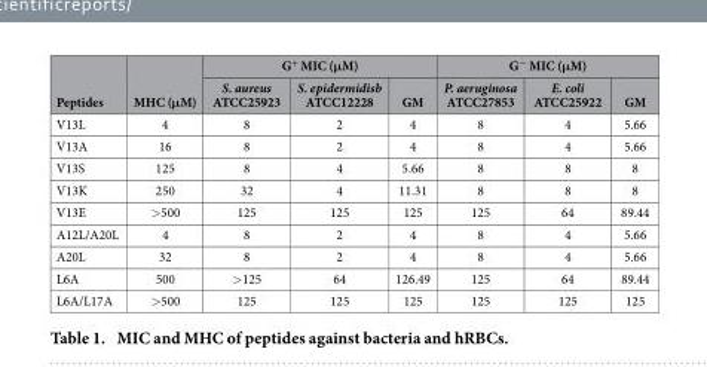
<table><thead><tr><td rowspan="2">Peptides</td><td rowspan="2">MHC (μM)</td><td colspan="3">G<sup>+</sup> MIC (μM)</td><td colspan="3">G<sup>−</sup> MIC (μM)</td></tr><tr><td>S. aureus ATCC25923</td><td>S. epidermidisb ATCC12228</td><td>GM</td><td>P. aeruginosa ATCC27853</td><td>E. coli ATCC25922</td><td>GM</td></tr></thead><tbody><tr><td>V13L</td><td>4</td><td>8</td><td>2</td><td>4</td><td>8</td><td>4</td><td>5.66</td></tr><tr><td>V13A</td><td>16</td><td>8</td><td>2</td><td>4</td><td>8</td><td>4</td><td>5.66</td></tr><tr><td>V13S</td><td>125</td><td>8</td><td>4</td><td>5.66</td><td>8</td><td>8</td><td>8</td></tr><tr><td>V13K</td><td>250</td><td>32</td><td>4</td><td>11.31</td><td>8</td><td>8</td><td>8</td></tr><tr><td>V13E</td><td>&gt; 500</td><td>125</td><td>125</td><td>125</td><td>125</td><td>64</td><td>89.44</td></tr><tr><td>A12L/A20L</td><td>4</td><td>8</td><td>2</td><td>4</td><td>8</td><td>4</td><td>5.66</td></tr><tr><td>A20L</td><td>32</td><td>8</td><td>2</td><td>4</td><td>8</td><td>4</td><td>5.66</td></tr><tr><td>L6A</td><td>500</td><td>&gt; 125</td><td>64</td><td>126.49</td><td>125</td><td>64</td><td>89.44</td></tr><tr><td>L6A/L17A</td><td>&gt; 500</td><td>125</td><td>125</td><td>125</td><td>125</td><td>125</td><td>125</td></tr></tbody></table>